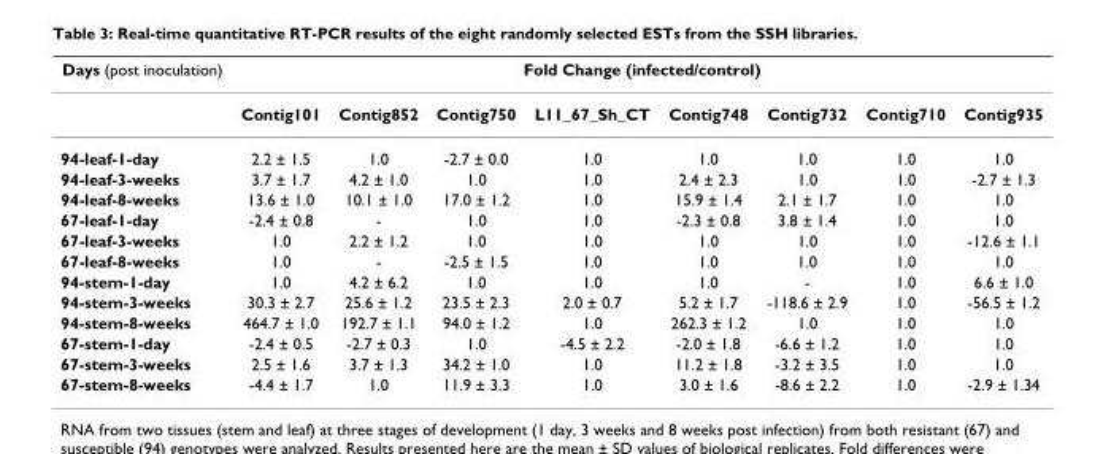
<table><thead><tr><td rowspan="2">Days (post inoculation)</td><td colspan="8">Fold Change (infected/control)</td></tr><tr><td>Contig101</td><td>Contig852</td><td>Contig750</td><td>L11_67_Sh_CT</td><td>Contig748</td><td>Contig732</td><td>Contig710</td><td>Contig935</td></tr></thead><tbody><tr><td>94-leaf-1-day</td><td>2.2 ± 1.5</td><td>1.0</td><td>-2.7 ± 0.0</td><td>1.0</td><td>1.0</td><td>1.0</td><td>1.0</td><td>1.0</td></tr><tr><td>94-leaf-3-weeks</td><td>3.7 ± 1.7</td><td>4.2 ± 1.0</td><td>1.0</td><td>1.0</td><td>2.4 ± 2.3</td><td>1.0</td><td>1.0</td><td>-2.7 ± 1.3</td></tr><tr><td>94-leaf-8-weeks</td><td>13.6 ± 1.0</td><td>10.1 ± 1.0</td><td>17.0 ± 1.2</td><td>1.0</td><td>15.9 ± 1.4</td><td>2.1 ± 1.7</td><td>1.0</td><td>1.0</td></tr><tr><td>67-leaf-1-day</td><td>-2.4 ± 0.8</td><td>-</td><td>1.0</td><td>1.0</td><td>-2.3 ± 0.8</td><td>3.8 ± 1.4</td><td>1.0</td><td>1.0</td></tr><tr><td>67-leaf-3-weeks</td><td>1.0</td><td>2.2 ± 1.2</td><td>1.0</td><td>1.0</td><td>1.0</td><td>1.0</td><td>1.0</td><td>-12.6 ± 1.1</td></tr><tr><td>67-leaf-8-weeks</td><td>1.0</td><td>-</td><td>-2.5 ± 1.5</td><td>1.0</td><td>1.0</td><td>1.0</td><td>1.0</td><td>1.0</td></tr><tr><td>94-stem-1-day</td><td>1.0</td><td>4.2 ± 6.2</td><td>1.0</td><td>1.0</td><td>1.0</td><td>-</td><td>1.0</td><td>6.6 ± 1.0</td></tr><tr><td>94-stem-3-weeks</td><td>30.3 ± 2.7</td><td>25.6 ± 1.2</td><td>23.5 ± 2.3</td><td>2.0 ± 0.7</td><td>5.2 ± 1.7</td><td>-118.6 ± 2.9</td><td>1.0</td><td>-56.5 ± 1.2</td></tr><tr><td>94-stem-8-weeks</td><td>464.7 ± 1.0</td><td>192.7 ± 1.1</td><td>94.0 ± 1.2</td><td>1.0</td><td>262.3 ± 1.2</td><td>1.0</td><td>1.0</td><td>1.0</td></tr><tr><td>67-stem-1-day</td><td>-2.4 ± 0.5</td><td>-2.7 ± 0.3</td><td>1.0</td><td>-4.5 ± 2.2</td><td>-2.0 ± 1.8</td><td>-6.6 ± 1.2</td><td>1.0</td><td>1.0</td></tr><tr><td>67-stem-3-weeks</td><td>2.5 ± 1.6</td><td>3.7 ± 1.3</td><td>34.2 ± 1.0</td><td>1.0</td><td>11.2 ± 1.8</td><td>-3.2 ± 3.5</td><td>1.0</td><td>1.0</td></tr><tr><td>67-stem-8-weeks</td><td>-4.4 ± 1.7</td><td>1.0</td><td>11.9 ± 3.3</td><td>1.0</td><td>3.0 ± 1.6</td><td>-8.6 ± 2.2</td><td>1.0</td><td>-2.9 ± 1.34</td></tr></tbody></table>